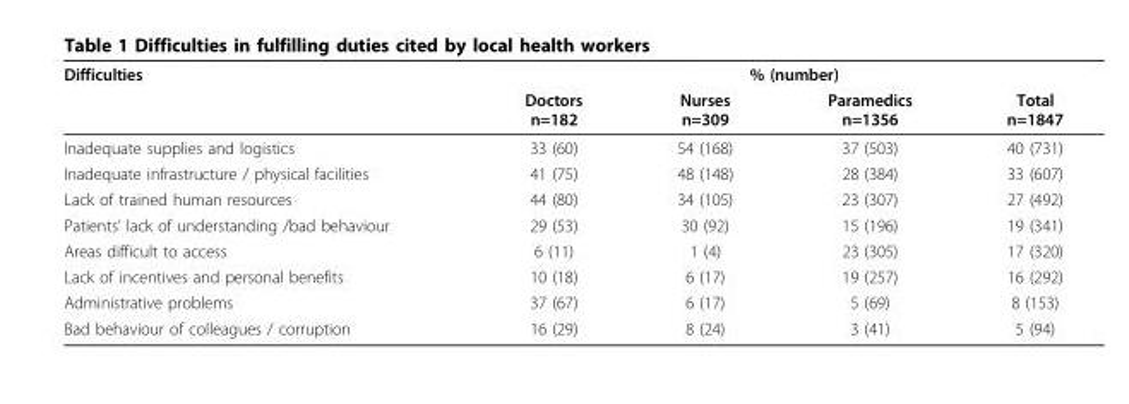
<table><thead><tr><td rowspan="2">Difficulties</td><td colspan="4">% (number)</td></tr><tr><td>Doctors n=182</td><td>Nurses n=309</td><td>Paramedics n=1356</td><td>Total n=1847</td></tr></thead><tbody><tr><td>Inadequate supplies and logistics</td><td>33 (60)</td><td>54 (168)</td><td>37 (503)</td><td>40 (731)</td></tr><tr><td>Inadequate infrastructure / physical facilities</td><td>41 (75)</td><td>48 (148)</td><td>28 (384)</td><td>33 (607)</td></tr><tr><td>Lack of trained human resources</td><td>44 (80)</td><td>34 (105)</td><td>23 (307)</td><td>27 (492)</td></tr><tr><td>Patients’ lack of understanding /bad behaviour</td><td>29 (53)</td><td>30 (92)</td><td>15 (196)</td><td>19 (341)</td></tr><tr><td>Areas difficult to access</td><td>6 (11)</td><td>1 (4)</td><td>23 (305)</td><td>17 (320)</td></tr><tr><td>Lack of incentives and personal benefits</td><td>10 (18)</td><td>6 (17)</td><td>19 (257)</td><td>16 (292)</td></tr><tr><td>Administrative problems</td><td>37 (67)</td><td>6 (17)</td><td>5 (69)</td><td>8 (153)</td></tr><tr><td>Bad behaviour of colleagues / corruption</td><td>16 (29)</td><td>8 (24)</td><td>3 (41)</td><td>5 (94)</td></tr></tbody></table>